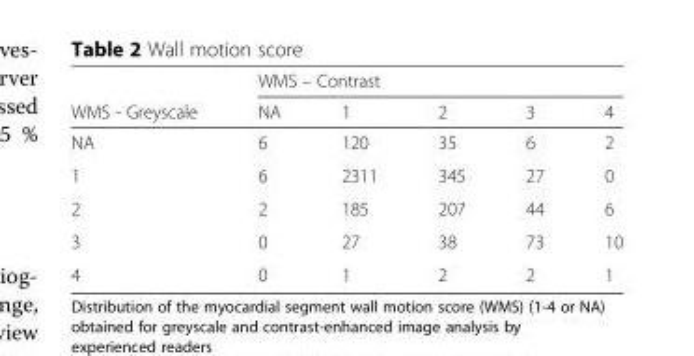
<table><thead><tr><td rowspan="2">WMS - Greyscale</td><td colspan="5">WMS – Contrast</td></tr><tr><td>NA</td><td>1</td><td>2</td><td>3</td><td>4</td></tr></thead><tbody><tr><td>NA</td><td>6</td><td>120</td><td>35</td><td>6</td><td>2</td></tr><tr><td>1</td><td>6</td><td>2311</td><td>345</td><td>27</td><td>0</td></tr><tr><td>2</td><td>2</td><td>185</td><td>207</td><td>44</td><td>6</td></tr><tr><td>3</td><td>0</td><td>27</td><td>38</td><td>73</td><td>10</td></tr><tr><td>4</td><td>0</td><td>1</td><td>2</td><td>2</td><td>1</td></tr></tbody></table>